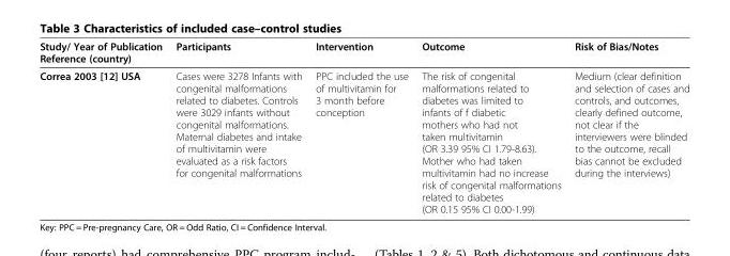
<table><thead><tr><td>Study/ Year of Publication Reference (country)</td><td>Participants</td><td>Intervention</td><td>Outcome</td><td>Risk of Bias/Notes</td></tr></thead><tbody><tr><td>Correa 2003 [12] USA</td><td>Cases were 3278 Infants with congenital malformations related to diabetes. Controls were 3029 infants without congenital malformations. Maternal diabetes and intake of multivitamin were evaluated as a risk factors for congenital malformations</td><td>PPC included the use of multivitamin for 3 month before conception</td><td>The risk of congenital malformations related to diabetes was limited to infants of f diabetic mothers who had not taken multivitamin (OR 3.39 95% CI 1.79-8.63). Mother who had taken multivitamin had no increase risk of congenital malformations related to diabetes (OR 0.15 95% CI 0.00-1.99)</td><td>Medium (clear definition and selection of cases and controls, and outcomes, clearly defined outcome, not clear if the interviewers were blinded to the outcome, recall bias cannot be excluded during the interviews)</td></tr></tbody></table>